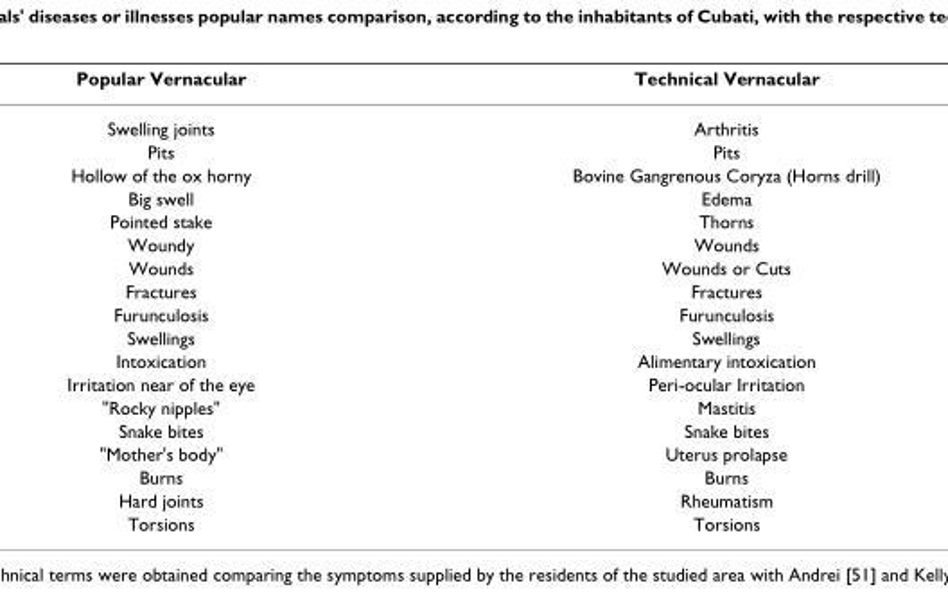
<table><thead><tr><td>Popular Vernacular</td><td>Technical Vernacular</td></tr></thead><tbody><tr><td>Swelling joints</td><td>Arthritis</td></tr><tr><td>Pits</td><td>Pits</td></tr><tr><td>Hollow of the ox horny</td><td>Bovine Gangrenous Coryza (Horns drill)</td></tr><tr><td>Big swell</td><td>Edema</td></tr><tr><td>Pointed stake</td><td>Thorns</td></tr><tr><td>Woundy</td><td>Wounds</td></tr><tr><td>Wounds</td><td>Wounds or Cuts</td></tr><tr><td>Fractures</td><td>Fractures</td></tr><tr><td>Furunculosis</td><td>Furunculosis</td></tr><tr><td>Swellings</td><td>Swellings</td></tr><tr><td>Intoxication</td><td>Alimentary intoxication</td></tr><tr><td>Irritation near of the eye</td><td>Peri-ocular Irritation</td></tr><tr><td>&quot;Rocky nipples&quot;</td><td>Mastitis</td></tr><tr><td>Snake bites</td><td>Snake bites</td></tr><tr><td>&quot;Mother&#x27;s body&quot;</td><td>Uterus prolapse</td></tr><tr><td>Burns</td><td>Burns</td></tr><tr><td>Hard joints</td><td>Rheumatism</td></tr><tr><td>Torsions</td><td>Torsions</td></tr></tbody></table>